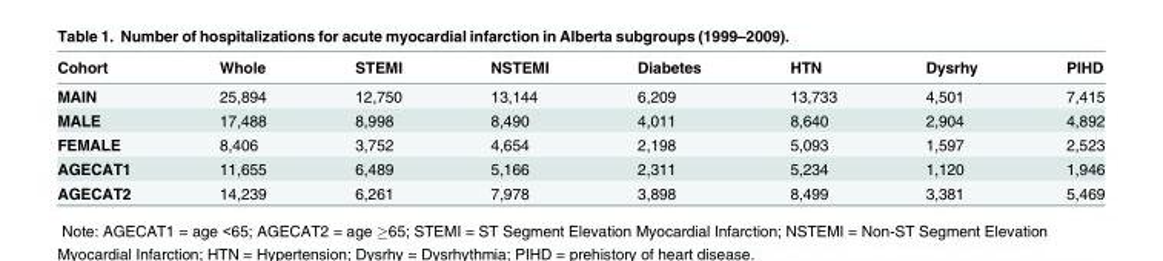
<table><thead><tr><td>Cohort</td><td>Whole</td><td>STEMI</td><td>NSTEMI</td><td>Diabetes</td><td>HTN</td><td>Dysrhy</td><td>PIHD</td></tr></thead><tbody><tr><td>MAIN</td><td>25,894</td><td>12,750</td><td>13,144</td><td>6,209</td><td>13,733</td><td>4,501</td><td>7,415</td></tr><tr><td>MALE</td><td>17,488</td><td>8,998</td><td>8,490</td><td>4,011</td><td>8,640</td><td>2,904</td><td>4,892</td></tr><tr><td>FEMALE</td><td>8,406</td><td>3,752</td><td>4,654</td><td>2,198</td><td>5,093</td><td>1,597</td><td>2,523</td></tr><tr><td>AGECAT1</td><td>11,655</td><td>6,489</td><td>5,166</td><td>2,311</td><td>5,234</td><td>1,120</td><td>1,946</td></tr><tr><td>AGECAT2</td><td>14,239</td><td>6,261</td><td>7,978</td><td>3,898</td><td>8,499</td><td>3,381</td><td>5,469</td></tr></tbody></table>